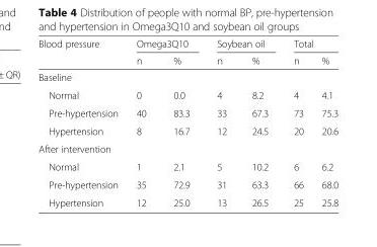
<table><thead><tr><td rowspan="2">Blood pressure</td><td colspan="2">Omega3Q10</td><td colspan="2">Soybean oil</td><td colspan="2">Total</td></tr><tr><td>n</td><td>%</td><td>n</td><td>%</td><td>n</td><td>%</td></tr></thead><tbody><tr><td colspan="7">Baseline</td></tr><tr><td>Normal</td><td>0</td><td>0.0</td><td>4</td><td>8.2</td><td>4</td><td>4.1</td></tr><tr><td>Pre-hypertension</td><td>40</td><td>83.3</td><td>33</td><td>67.3</td><td>73</td><td>75.3</td></tr><tr><td>Hypertension</td><td>8</td><td>16.7</td><td>12</td><td>24.5</td><td>20</td><td>20.6</td></tr><tr><td colspan="7">After intervention</td></tr><tr><td>Normal</td><td>1</td><td>2.1</td><td>5</td><td>10.2</td><td>6</td><td>6.2</td></tr><tr><td>Pre-hypertension</td><td>35</td><td>72.9</td><td>31</td><td>63.3</td><td>66</td><td>68.0</td></tr><tr><td>Hypertension</td><td>12</td><td>25.0</td><td>13</td><td>26.5</td><td>25</td><td>25.8</td></tr></tbody></table>